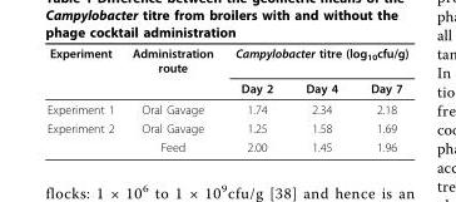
<table><thead><tr><td rowspan="2">Experiment</td><td rowspan="2">Administration route</td><td colspan="3">Campylobacter titre (log<sub>10</sub>cfu/g)</td></tr><tr><td>Day 2</td><td>Day 4</td><td>Day 7</td></tr></thead><tbody><tr><td>Experiment 1</td><td>Oral Gavage</td><td>1.74</td><td>2.34</td><td>2.18</td></tr><tr><td rowspan="2">Experiment 2</td><td>Oral Gavage</td><td>1.25</td><td>1.58</td><td>1.69</td></tr><tr><td>Feed</td><td>2.00</td><td>1.45</td><td>1.96</td></tr></tbody></table>